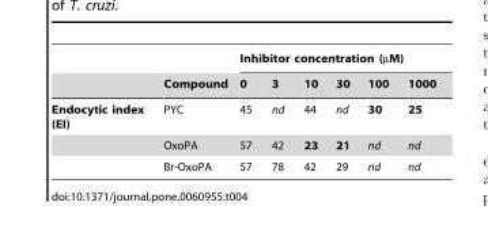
<table><thead><tr><td rowspan="2"></td><td rowspan="2">Compound</td><td colspan="6">Inhibitor concentration (µM)</td></tr><tr><td>0</td><td>3</td><td>10</td><td>30</td><td>100</td><td>1000</td></tr></thead><tbody><tr><td rowspan="3">Endocytic index (EI)</td><td>PYC</td><td>45</td><td>nd</td><td>44</td><td>nd</td><td>30</td><td>25</td></tr><tr><td>OxoPA</td><td>57</td><td>42</td><td>23</td><td>21</td><td>nd</td><td>nd</td></tr><tr><td>Br-OxoPA</td><td>57</td><td>78</td><td>42</td><td>29</td><td>nd</td><td>nd</td></tr></tbody></table>